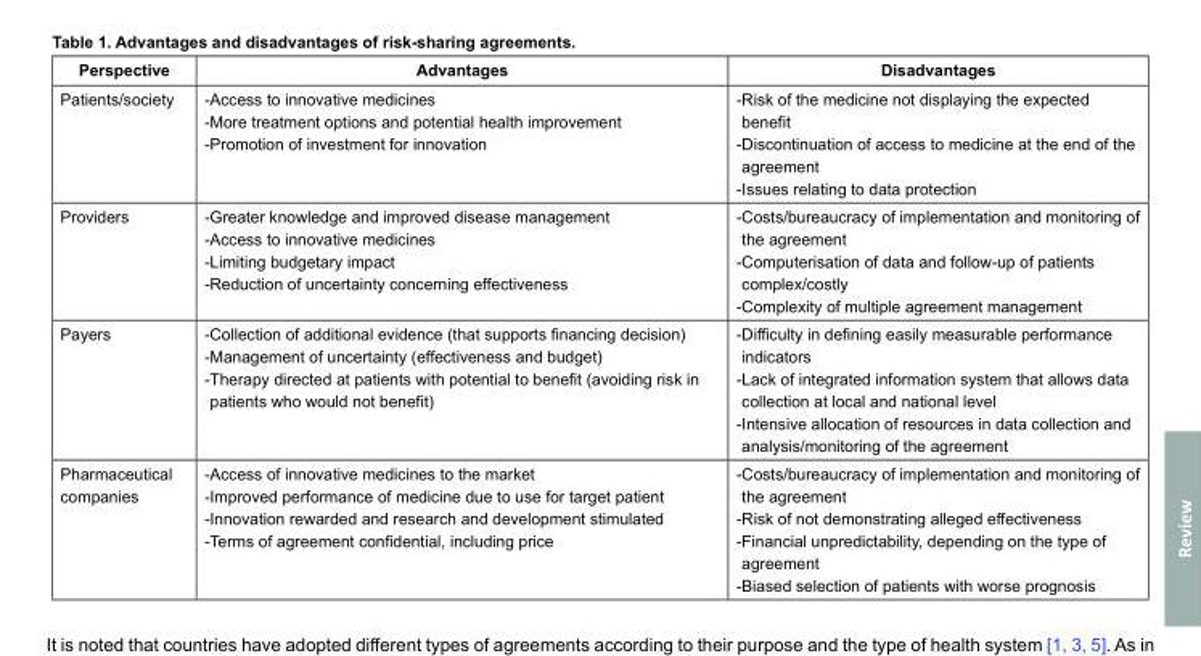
<table><thead><tr><td>Perspective</td><td>Advantages</td><td>Disadvantages</td></tr></thead><tbody><tr><td>Patients/society</td><td>-Access to innovative medicines -More treatment options and potential health improvement -Promotion of investment for innovation</td><td>- Risk of the medicine not displaying the expected benefit - Discontinuation of access to medicine at the end of the agreement -Issues relating to data protection</td></tr><tr><td>Providers</td><td>-Greater knowledge and improved disease management -Access to innovative medicines -Limiting budgetary impact -Reduction of uncertainty concerning effectiveness</td><td>- Costs/bureaucracy of implementation and monitoring of the agreement - Computerisation of data and follow-up of patients complex/costly -Complexity of multiple agreement management</td></tr><tr><td>Payers</td><td>-Collection of additional evidence (that supports financing decision) -Management of uncertainty (effectiveness and budget) - Therapy directed at patients with potential to benefit (avoiding risk in patients who would not benefit)</td><td>- Difficulty in defining easily measurable performance indicators - Lack of integrated information system that allows data collection at local and national level - Intensive allocation of resources in data collection and analysis/monitoring of the agreement</td></tr><tr><td>Pharmaceutical companies</td><td>-Access of innovative medicines to the market -Improved performance of medicine due to use for target patient -Innovation rewarded and research and development stimulated -Terms of agreement confidential, including price</td><td>- Costs/bureaucracy of implementation and monitoring of the agreement -Risk of not demonstrating alleged effectiveness - Financial unpredictability, depending on the type of agreement -Biased selection of patients with worse prognosis</td></tr></tbody></table>